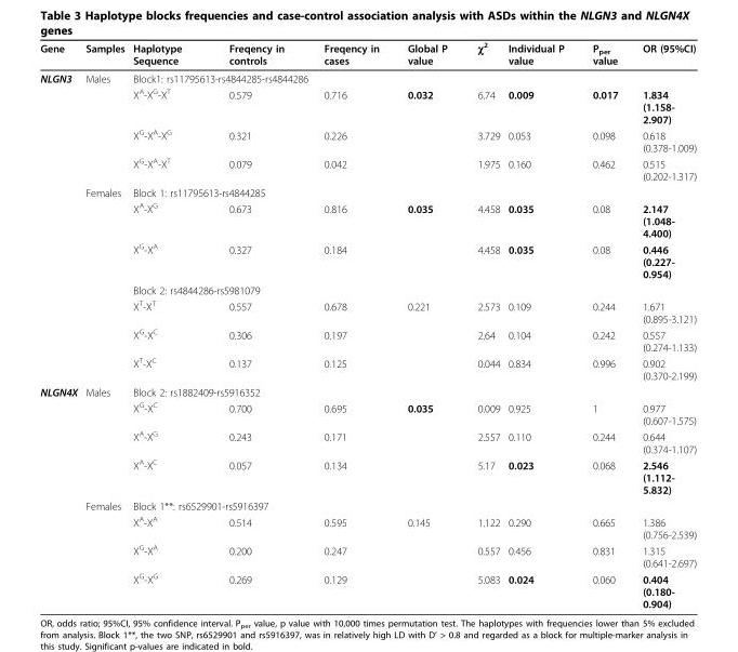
<table><thead><tr><td>Gene</td><td>Samples</td><td>Haplotype Sequence</td><td>Freqency in controls</td><td>Freqency in cases</td><td>Global P value</td><td>χ<sup>2</sup></td><td>Individual P value</td><td>P<sub>per</sub> value</td><td>OR (95%CI)</td></tr></thead><tbody><tr><td rowspan="11">NLGN3</td><td>Males</td><td colspan="4">Block1: rs11795613-rs4844285-rs4844286</td><td></td><td></td><td></td><td></td></tr><tr><td></td><td>X<sup>A</sup>-X<sup>G</sup>-X<sup>T</sup></td><td>0.579</td><td>0.716</td><td>0.032</td><td>6.74</td><td>0.009</td><td>0.017</td><td>1.834 (1.158- 2.907)</td></tr><tr><td></td><td>X<sup>G</sup>-X<sup>A</sup>-X<sup>G</sup></td><td>0.321</td><td>0.226</td><td></td><td>3.729</td><td>0.053</td><td>0.098</td><td>0.618 (0.378-1.009)</td></tr><tr><td></td><td>X<sup>G</sup>-X<sup>A</sup>-X<sup>T</sup></td><td>0.079</td><td>0.042</td><td></td><td>1.975</td><td>0.160</td><td>0.462</td><td>0.515 (0.202-1.317)</td></tr><tr><td>Females</td><td colspan="3">Block 1: rs11795613-rs4844285</td><td></td><td></td><td></td><td></td><td></td></tr><tr><td></td><td>X<sup>A</sup>-X<sup>G</sup></td><td>0.673</td><td>0.816</td><td>0.035</td><td>4.458</td><td>0.035</td><td>0.08</td><td>2.147 (1.048- 4.400)</td></tr><tr><td></td><td>X<sup>G</sup>-X<sup>A</sup></td><td>0.327</td><td>0.184</td><td></td><td>4.458</td><td>0.035</td><td>0.08</td><td>0.446 (0.227- 0.954)</td></tr><tr><td></td><td colspan="4">Block 2: rs4844286-rs5981079</td><td></td><td></td><td></td><td></td></tr><tr><td></td><td>X<sup>T</sup>-X<sup>T</sup></td><td>0.557</td><td>0.678</td><td>0.221</td><td>2.573</td><td>0.109</td><td>0.244</td><td>1.671 (0.895-3.121)</td></tr><tr><td></td><td>X<sup>G</sup>-X<sup>C</sup></td><td>0.306</td><td>0.197</td><td></td><td>2.64</td><td>0.104</td><td>0.242</td><td>0.557 (0.274-1.133)</td></tr><tr><td></td><td>X<sup>T</sup>-X<sup>C</sup></td><td>0.137</td><td>0.125</td><td></td><td>0.044</td><td>0.834</td><td>0.996</td><td>0.902 (0.370-2.199)</td></tr><tr><td rowspan="8">NLGN4X</td><td>Males</td><td colspan="3">Block 2: rs1882409-rs5916352</td><td></td><td></td><td></td><td></td><td></td></tr><tr><td></td><td>X<sup>G</sup>-X<sup>C</sup></td><td>0.700</td><td>0.695</td><td>0.035</td><td>0.009</td><td>0.925</td><td>1</td><td>0.977 (0.607-1.575)</td></tr><tr><td></td><td>X<sup>A</sup>-X<sup>G</sup></td><td>0.243</td><td>0.171</td><td></td><td>2.557</td><td>0.110</td><td>0.244</td><td>0.644 (0.374-1.107)</td></tr><tr><td></td><td>X<sup>A</sup>-X<sup>C</sup></td><td>0.057</td><td>0.134</td><td></td><td>5.17</td><td>0.023</td><td>0.068</td><td>2.546 (1.112- 5.832)</td></tr><tr><td>Females</td><td colspan="3">Block 1**: rs6529901-rs5916397</td><td></td><td></td><td></td><td></td><td></td></tr><tr><td></td><td>X<sup>A</sup>-X<sup>A</sup></td><td>0.514</td><td>0.595</td><td>0.145</td><td>1.122</td><td>0.290</td><td>0.665</td><td>1.386 (0.756-2.539)</td></tr><tr><td></td><td>X<sup>G</sup>-X<sup>A</sup></td><td>0.200</td><td>0.247</td><td></td><td>0.557</td><td>0.456</td><td>0.831</td><td>1.315 (0.641-2.697)</td></tr><tr><td></td><td>X<sup>G</sup>-X<sup>G</sup></td><td>0.269</td><td>0.129</td><td></td><td>5.083</td><td>0.024</td><td>0.060</td><td>0.404 (0.180- 0.904)</td></tr></tbody></table>